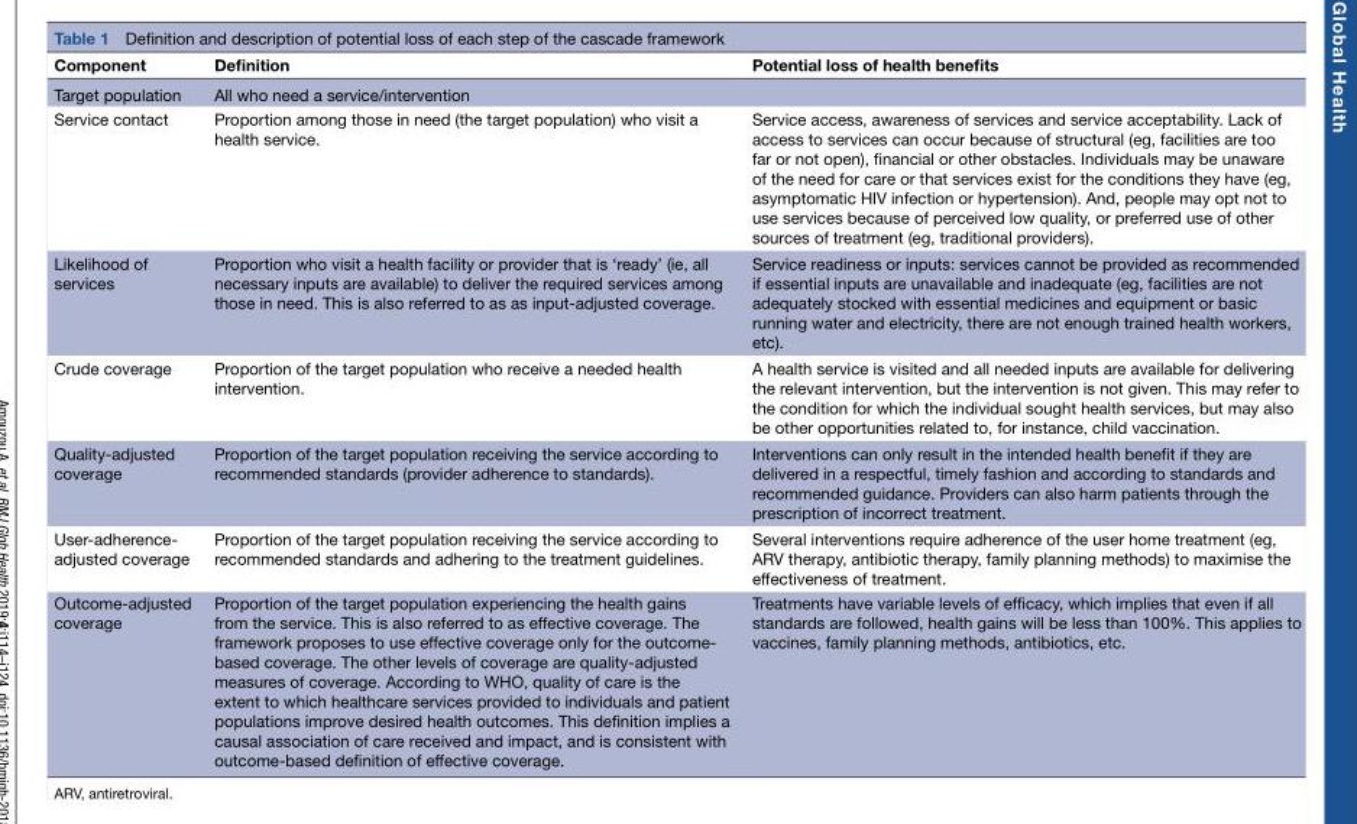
<table><thead><tr><td>Component</td><td>Definition</td><td>Potential loss of health benefits</td></tr></thead><tbody><tr><td>Target population</td><td>All who need a service/intervention</td><td></td></tr><tr><td>Service contact</td><td>Proportion among those in need (the target population) who visit a health service.</td><td>Service access, awareness of services and service acceptability. Lack of access to services can occur because of structural (eg, facilities are too far or not open), financial or other obstacles. Individuals may be unaware of the need for care or that services exist for the conditions they have (eg, asymptomatic HIV infection or hypertension). And, people may opt not to use services because of perceived low quality, or preferred use of other sources of treatment (eg, traditional providers).</td></tr><tr><td>Likelihood of services</td><td>Proportion who visit a health facility or provider that is ‘ready’ (ie, all necessary inputs are available) to deliver the required services among those in need. This is also referred to as as input-adjusted coverage.</td><td>Service readiness or inputs: services cannot be provided as recommended if essential inputs are unavailable and inadequate (eg, facilities are not adequately stocked with essential medicines and equipment or basic running water and electricity, there are not enough trained health workers, etc).</td></tr><tr><td>Crude coverage</td><td>Proportion of the target population who receive a needed health intervention.</td><td>A health service is visited and all needed inputs are available for delivering the relevant intervention, but the intervention is not given. This may refer to the condition for which the individual sought health services, but may also be other opportunities related to, for instance, child vaccination.</td></tr><tr><td>Quality-adjusted coverage</td><td>Proportion of the target population receiving the service according to recommended standards (provider adherence to standards).</td><td>Interventions can only result in the intended health benefit if they are delivered in a respectful, timely fashion and according to standards and recommended guidance. Providers can also harm patients through the prescription of incorrect treatment.</td></tr><tr><td>User-adherence- adjusted coverage</td><td>Proportion of the target population receiving the service according to recommended standards and adhering to the treatment guidelines.</td><td>Several interventions require adherence of the user home treatment (eg, ARV therapy, antibiotic therapy, family planning methods) to maximise the effectiveness of treatment.</td></tr><tr><td>Outcome-adjusted coverage</td><td>Proportion of the target population experiencing the health gains from the service. This is also referred to as effective coverage. The framework proposes to use effective coverage only for the outcome- based coverage. The other levels of coverage are quality-adjusted measures of coverage. According to WHO, quality of care is the extent to which healthcare services provided to individuals and patient populations improve desired health outcomes. This definition implies a causal association of care received and impact, and is consistent with outcome-based definition of effective coverage.</td><td>Treatments have variable levels of efficacy, which implies that even if all standards are followed, health gains will be less than 100%. This applies to vaccines, family planning methods, antibiotics, etc.</td></tr></tbody></table>